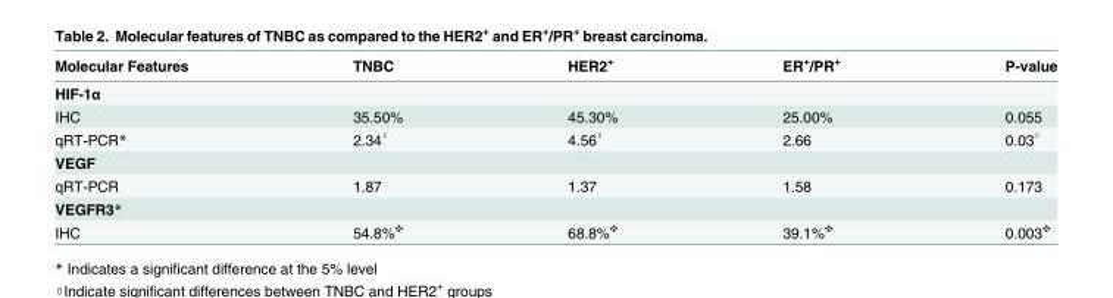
<table><thead><tr><td>Molecular Features</td><td>TNBC</td><td>HER2<sup>+</sup></td><td>ER<sup>+</sup>/PR<sup>+</sup></td><td>P-value</td></tr></thead><tbody><tr><td colspan="5">HIF-1α</td></tr><tr><td>IHC</td><td>35.50%</td><td>45.30%</td><td>25.00%</td><td>0.055</td></tr><tr><td>qRT-PCR*</td><td>2.34<sup>▯</sup></td><td>4.56<sup>▯</sup></td><td>2.66</td><td>0.03<sup>▯</sup></td></tr><tr><td colspan="5">VEGF</td></tr><tr><td>qRT-PCR</td><td>1.87</td><td>1.37</td><td>1.58</td><td>0.173</td></tr><tr><td colspan="5">VEGFR3*</td></tr><tr><td>IHC</td><td>54.8%<sup>❖</sup></td><td>68.8%<sup>❖</sup></td><td>39.1%<sup>❖</sup></td><td>0.003<sup>❖</sup></td></tr></tbody></table>